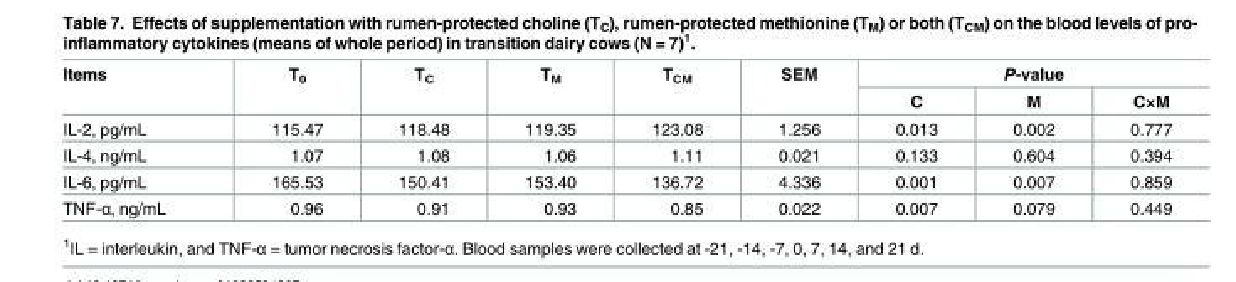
<table><thead><tr><td rowspan="2">Items</td><td rowspan="2">T<sub>0</sub></td><td rowspan="2">T<sub>C</sub></td><td rowspan="2">T<sub>M</sub></td><td rowspan="2">T<sub>CM</sub></td><td rowspan="2">SEM</td><td colspan="3">P-value</td></tr><tr><td>C</td><td>M</td><td>C×M</td></tr></thead><tbody><tr><td>IL-2, pg/mL</td><td>115.47</td><td>118.48</td><td>119.35</td><td>123.08</td><td>1.256</td><td>0.013</td><td>0.002</td><td>0.777</td></tr><tr><td>IL-4, ng/mL</td><td>1.07</td><td>1.08</td><td>1.06</td><td>1.11</td><td>0.021</td><td>0.133</td><td>0.604</td><td>0.394</td></tr><tr><td>IL-6, pg/mL</td><td>165.53</td><td>150.41</td><td>153.40</td><td>136.72</td><td>4.336</td><td>0.001</td><td>0.007</td><td>0.859</td></tr><tr><td>TNF-α, ng/mL</td><td>0.96</td><td>0.91</td><td>0.93</td><td>0.85</td><td>0.022</td><td>0.007</td><td>0.079</td><td>0.449</td></tr></tbody></table>